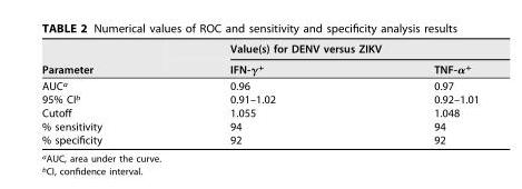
<table><thead><tr><td rowspan="2">Parameter</td><td colspan="2">Value(s) for DENV versus ZIKV</td></tr><tr><td>IFN-γ<sup>+</sup></td><td>TNF-α<sup>+</sup></td></tr></thead><tbody><tr><td>AUC<sup>a</sup></td><td>0.96</td><td>0.97</td></tr><tr><td>95% CI<sup>b</sup></td><td>0.91–1.02</td><td>0.92–1.01</td></tr><tr><td>Cutoff</td><td>1.055</td><td>1.048</td></tr><tr><td>% sensitivity</td><td>94</td><td>94</td></tr><tr><td>% specificity</td><td>92</td><td>92</td></tr></tbody></table>